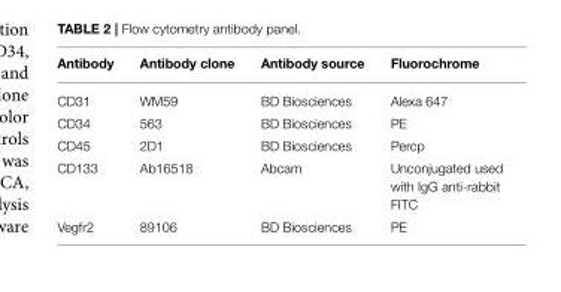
<table><thead><tr><td>Antibody</td><td>Antibody clone</td><td>Antibody source</td><td>Fluorochrome</td></tr></thead><tbody><tr><td>CD31</td><td>WM59</td><td>BD Biosciences</td><td>Alexa 647</td></tr><tr><td>CD34</td><td>563</td><td>BD Biosciences</td><td>PE</td></tr><tr><td>CD45</td><td>2D1</td><td>BD Biosciences</td><td>Percp</td></tr><tr><td>CD133</td><td>Ab16518</td><td>Abcam</td><td>Unconjugated used with IgG anti-rabbit FITC</td></tr><tr><td>Vegfr2</td><td>89106</td><td>BD Biosciences</td><td>PE</td></tr></tbody></table>